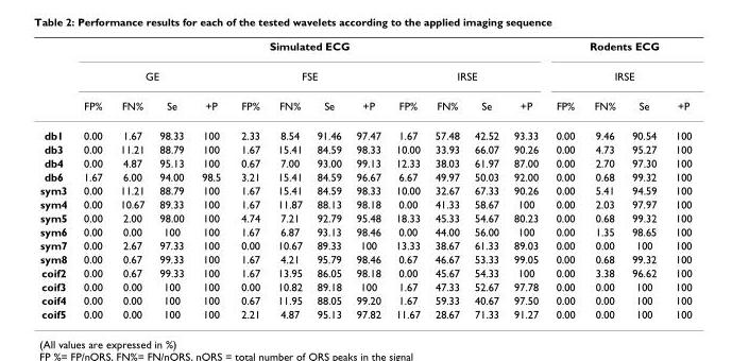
<table><thead><tr><td rowspan="3"></td><td colspan="12">Simulated ECG</td><td rowspan="2" colspan="4">Rodents ECG IRSE</td></tr><tr><td colspan="4">GE</td><td colspan="4">FSE</td><td colspan="4">IRSE</td></tr><tr><td>FP%</td><td>FN%</td><td>Se</td><td>+P</td><td>FP%</td><td>FN%</td><td>Se</td><td>+P</td><td>FP%</td><td>FN%</td><td>Se</td><td>+P</td><td>FP%</td><td>FN%</td><td>Se</td><td>+P</td></tr></thead><tbody><tr><td>db1</td><td>0.00</td><td>1.67</td><td>98.33</td><td>100</td><td>2.33</td><td>8.54</td><td>91.46</td><td>97.47</td><td>1.67</td><td>57.48</td><td>42.52</td><td>93.33</td><td>0.00</td><td>9.46</td><td>90.54</td><td>100</td></tr><tr><td>db3</td><td>0.00</td><td>11.21</td><td>88.79</td><td>100</td><td>1.67</td><td>15.41</td><td>84.59</td><td>98.33</td><td>10.00</td><td>33.93</td><td>66.07</td><td>90.26</td><td>0.00</td><td>4.73</td><td>95.27</td><td>100</td></tr><tr><td>db4</td><td>0.00</td><td>4.87</td><td>95.13</td><td>100</td><td>0.67</td><td>7.00</td><td>93.00</td><td>99.13</td><td>12.33</td><td>38.03</td><td>61.97</td><td>87.00</td><td>0.00</td><td>2.70</td><td>97.30</td><td>100</td></tr><tr><td>db6</td><td>1.67</td><td>6.00</td><td>94.00</td><td>98.5</td><td>3.21</td><td>15.41</td><td>84.59</td><td>96.67</td><td>6.67</td><td>49.97</td><td>50.03</td><td>92.00</td><td>0.00</td><td>0.68</td><td>99.32</td><td>100</td></tr><tr><td>sym3</td><td>0.00</td><td>11.21</td><td>88.79</td><td>100</td><td>1.67</td><td>15.41</td><td>84.59</td><td>98.33</td><td>10.00</td><td>32.67</td><td>67.33</td><td>90.26</td><td>0.00</td><td>5.41</td><td>94.59</td><td>100</td></tr><tr><td>sym4</td><td>0.00</td><td>10.67</td><td>89.33</td><td>100</td><td>1.67</td><td>11.87</td><td>88.13</td><td>98.18</td><td>0.00</td><td>41.33</td><td>58.67</td><td>100</td><td>0.00</td><td>2.03</td><td>97.97</td><td>100</td></tr><tr><td>sym5</td><td>0.00</td><td>2.00</td><td>98.00</td><td>100</td><td>4.74</td><td>7.21</td><td>92.79</td><td>95.48</td><td>18.33</td><td>45.33</td><td>54.67</td><td>80.23</td><td>0.00</td><td>0.68</td><td>99.32</td><td>100</td></tr><tr><td>sym6</td><td>0.00</td><td>0.00</td><td>100</td><td>100</td><td>1.67</td><td>6.87</td><td>93.13</td><td>98.46</td><td>0.00</td><td>44.00</td><td>56.00</td><td>100</td><td>0.00</td><td>1.35</td><td>98.65</td><td>100</td></tr><tr><td>sym7</td><td>0.00</td><td>2.67</td><td>97.33</td><td>100</td><td>0.00</td><td>10.67</td><td>89.33</td><td>100</td><td>13.33</td><td>38.67</td><td>61.33</td><td>89.03</td><td>0.00</td><td>0.00</td><td>100</td><td>100</td></tr><tr><td>sym8</td><td>0.00</td><td>0.67</td><td>99.33</td><td>100</td><td>1.67</td><td>4.21</td><td>95.79</td><td>98.46</td><td>0.67</td><td>46.67</td><td>53.33</td><td>99.05</td><td>0.00</td><td>0.68</td><td>99.32</td><td>100</td></tr><tr><td>coif2</td><td>0.00</td><td>0.67</td><td>99.33</td><td>100</td><td>1.67</td><td>13.95</td><td>86.05</td><td>98.18</td><td>0.00</td><td>45.67</td><td>54.33</td><td>100</td><td>0.00</td><td>3.38</td><td>96.62</td><td>100</td></tr><tr><td>coif3</td><td>0.00</td><td>0.00</td><td>100</td><td>100</td><td>0.00</td><td>10.82</td><td>89.18</td><td>100</td><td>1.67</td><td>47.33</td><td>52.67</td><td>97.78</td><td>0.00</td><td>0.00</td><td>100</td><td>100</td></tr><tr><td>coif4</td><td>0.00</td><td>0.00</td><td>100</td><td>100</td><td>0.67</td><td>11.95</td><td>88.05</td><td>99.20</td><td>1.67</td><td>59.33</td><td>40.67</td><td>97.50</td><td>0.00</td><td>0.00</td><td>100</td><td>100</td></tr><tr><td>coif5</td><td>0.00</td><td>0.00</td><td>100</td><td>100</td><td>2.21</td><td>4.87</td><td>95.13</td><td>97.82</td><td>11.67</td><td>28.67</td><td>71.33</td><td>91.27</td><td>0.00</td><td>0.00</td><td>100</td><td>100</td></tr></tbody></table>